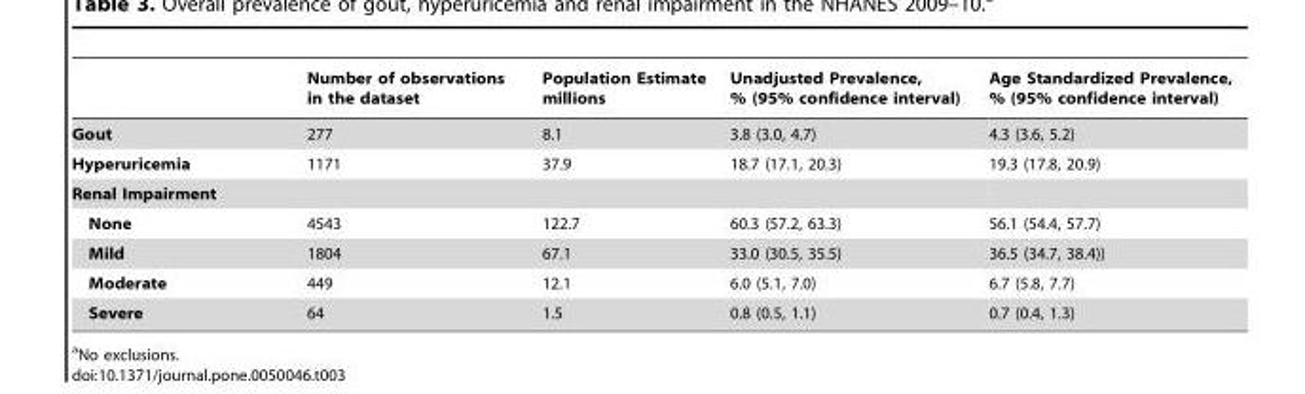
<table><thead><tr><td></td><td>Number of observations in the dataset</td><td>Population Estimate millions</td><td>Unadjusted Prevalence, % (95% confidence interval)</td><td>Age Standardized Prevalence, % (95% confidence interval)</td></tr></thead><tbody><tr><td>Gout</td><td>277</td><td>8.1</td><td>3.8 (3.0, 4.7)</td><td>4.3 (3.6, 5.2)</td></tr><tr><td>Hyperuricemia</td><td>1171</td><td>37.9</td><td>18.7 (17.1, 20.3)</td><td>19.3 (17.8, 20.9)</td></tr><tr><td colspan="5">Renal Impairment</td></tr><tr><td>None</td><td>4543</td><td>122.7</td><td>60.3 (57.2, 63.3)</td><td>56.1 (54.4, 57.7)</td></tr><tr><td>Mild</td><td>1804</td><td>67.1</td><td>33.0 (30.5, 35.5)</td><td>36.5 (34.7, 38.4))</td></tr><tr><td>Moderate</td><td>449</td><td>12.1</td><td>6.0 (5.1, 7.0)</td><td>6.7 (5.8, 7.7)</td></tr><tr><td>Severe</td><td>64</td><td>1.5</td><td>0.8 (0.5, 1.1)</td><td>0.7 (0.4, 1.3)</td></tr></tbody></table>